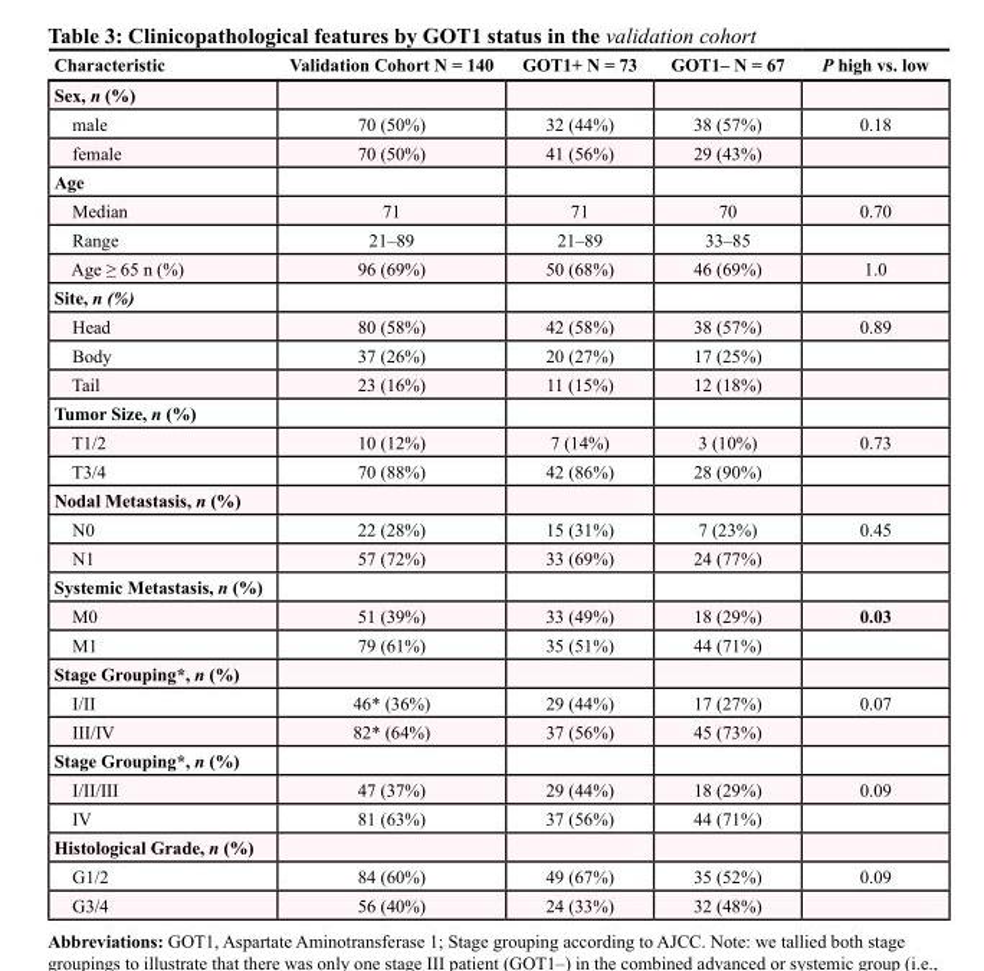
<table><thead><tr><td>Characteristic</td><td>Validation Cohort N = 140</td><td>GOT1+ N = 73</td><td>GOT1– N = 67</td><td>P high vs. low</td></tr></thead><tbody><tr><td colspan="5">Sex, n (%)</td></tr><tr><td>male</td><td>70 (50%)</td><td>32 (44%)</td><td>38 (57%)</td><td>0.18</td></tr><tr><td>female</td><td>70 (50%)</td><td>41 (56%)</td><td>29 (43%)</td><td></td></tr><tr><td colspan="5">Age</td></tr><tr><td>Median</td><td>71</td><td>71</td><td>70</td><td>0.70</td></tr><tr><td>Range</td><td>21–89</td><td>21–89</td><td>33–85</td><td></td></tr><tr><td>Age ≥ 65 n (%)</td><td>96 (69%)</td><td>50 (68%)</td><td>46 (69%)</td><td>1.0</td></tr><tr><td colspan="5">Site, n (%)</td></tr><tr><td>Head</td><td>80 (58%)</td><td>42 (58%)</td><td>38 (57%)</td><td>0.89</td></tr><tr><td>Body</td><td>37 (26%)</td><td>20 (27%)</td><td>17 (25%)</td><td></td></tr><tr><td>Tail</td><td>23 (16%)</td><td>11 (15%)</td><td>12 (18%)</td><td></td></tr><tr><td colspan="5">Tumor Size, n (%)</td></tr><tr><td>T1/2</td><td>10 (12%)</td><td>7 (14%)</td><td>3 (10%)</td><td>0.73</td></tr><tr><td>T3/4</td><td>70 (88%)</td><td>42 (86%)</td><td>28 (90%)</td><td></td></tr><tr><td colspan="5">Nodal Metastasis, n (%)</td></tr><tr><td>N0</td><td>22 (28%)</td><td>15 (31%)</td><td>7 (23%)</td><td>0.45</td></tr><tr><td>N1</td><td>57 (72%)</td><td>33 (69%)</td><td>24 (77%)</td><td></td></tr><tr><td colspan="5">Systemic Metastasis, n (%)</td></tr><tr><td>M0</td><td>51 (39%)</td><td>33 (49%)</td><td>18 (29%)</td><td>0.03</td></tr><tr><td>M1</td><td>79 (61%)</td><td>35 (51%)</td><td>44 (71%)</td><td></td></tr><tr><td colspan="5">Stage Grouping*, n (%)</td></tr><tr><td>I/II</td><td>46* (36%)</td><td>29 (44%)</td><td>17 (27%)</td><td>0.07</td></tr><tr><td>III/IV</td><td>82* (64%)</td><td>37 (56%)</td><td>45 (73%)</td><td></td></tr><tr><td colspan="5">Stage Grouping*, n (%)</td></tr><tr><td>I/II/III</td><td>47 (37%)</td><td>29 (44%)</td><td>18 (29%)</td><td>0.09</td></tr><tr><td>IV</td><td>81 (63%)</td><td>37 (56%)</td><td>44 (71%)</td><td></td></tr><tr><td colspan="5">Histological Grade, n (%)</td></tr><tr><td>G1/2</td><td>84 (60%)</td><td>49 (67%)</td><td>35 (52%)</td><td>0.09</td></tr><tr><td>G3/4</td><td>56 (40%)</td><td>24 (33%)</td><td>32 (48%)</td><td></td></tr></tbody></table>